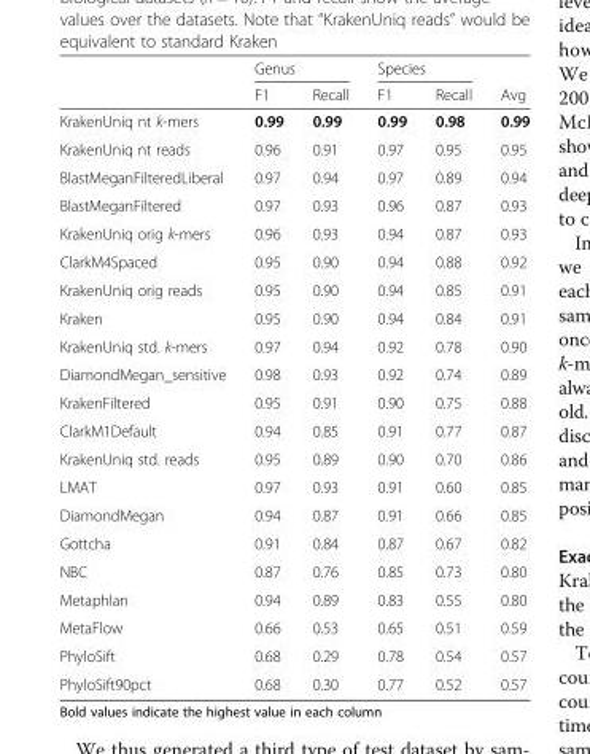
<table><thead><tr><td rowspan="2"></td><td colspan="2">Genus</td><td colspan="2">Species</td><td rowspan="2">Avg</td></tr><tr><td>F1</td><td>Recall</td><td>F1</td><td>Recall</td></tr></thead><tbody><tr><td>KrakenUniq nt k-mers</td><td>0.99</td><td>0.99</td><td>0.99</td><td>0.98</td><td>0.99</td></tr><tr><td>KrakenUniq nt reads</td><td>0.96</td><td>0.91</td><td>0.97</td><td>0.95</td><td>0.95</td></tr><tr><td>BlastMeganFilteredLiberal</td><td>0.97</td><td>0.94</td><td>0.97</td><td>0.89</td><td>0.94</td></tr><tr><td>BlastMeganFiltered</td><td>0.97</td><td>0.93</td><td>0.96</td><td>0.87</td><td>0.93</td></tr><tr><td>KrakenUniq orig k-mers</td><td>0.96</td><td>0.93</td><td>0.94</td><td>0.87</td><td>0.93</td></tr><tr><td>ClarkM4Spaced</td><td>0.95</td><td>0.90</td><td>0.94</td><td>0.88</td><td>0.92</td></tr><tr><td>KrakenUniq orig reads</td><td>0.95</td><td>0.90</td><td>0.94</td><td>0.85</td><td>0.91</td></tr><tr><td>Kraken</td><td>0.95</td><td>0.90</td><td>0.94</td><td>0.84</td><td>0.91</td></tr><tr><td>KrakenUniq std. k-mers</td><td>0.97</td><td>0.94</td><td>0.92</td><td>0.78</td><td>0.90</td></tr><tr><td>DiamondMegan_sensitive</td><td>0.98</td><td>0.93</td><td>0.92</td><td>0.74</td><td>0.89</td></tr><tr><td>KrakenFiltered</td><td>0.95</td><td>0.91</td><td>0.90</td><td>0.75</td><td>0.88</td></tr><tr><td>ClarkM1Default</td><td>0.94</td><td>0.85</td><td>0.91</td><td>0.77</td><td>0.87</td></tr><tr><td>KrakenUniq std. reads</td><td>0.95</td><td>0.89</td><td>0.90</td><td>0.70</td><td>0.86</td></tr><tr><td>LMAT</td><td>0.97</td><td>0.93</td><td>0.91</td><td>0.60</td><td>0.85</td></tr><tr><td>DiamondMegan</td><td>0.94</td><td>0.87</td><td>0.91</td><td>0.66</td><td>0.85</td></tr><tr><td>Gottcha</td><td>0.91</td><td>0.84</td><td>0.87</td><td>0.67</td><td>0.82</td></tr><tr><td>NBC</td><td>0.87</td><td>0.76</td><td>0.85</td><td>0.73</td><td>0.80</td></tr><tr><td>Metaphlan</td><td>0.94</td><td>0.89</td><td>0.83</td><td>0.55</td><td>0.80</td></tr><tr><td>MetaFlow</td><td>0.66</td><td>0.53</td><td>0.65</td><td>0.51</td><td>0.59</td></tr><tr><td>PhyloSift</td><td>0.68</td><td>0.29</td><td>0.78</td><td>0.54</td><td>0.57</td></tr><tr><td>PhyloSift90pct</td><td>0.68</td><td>0.30</td><td>0.77</td><td>0.52</td><td>0.57</td></tr></tbody></table>